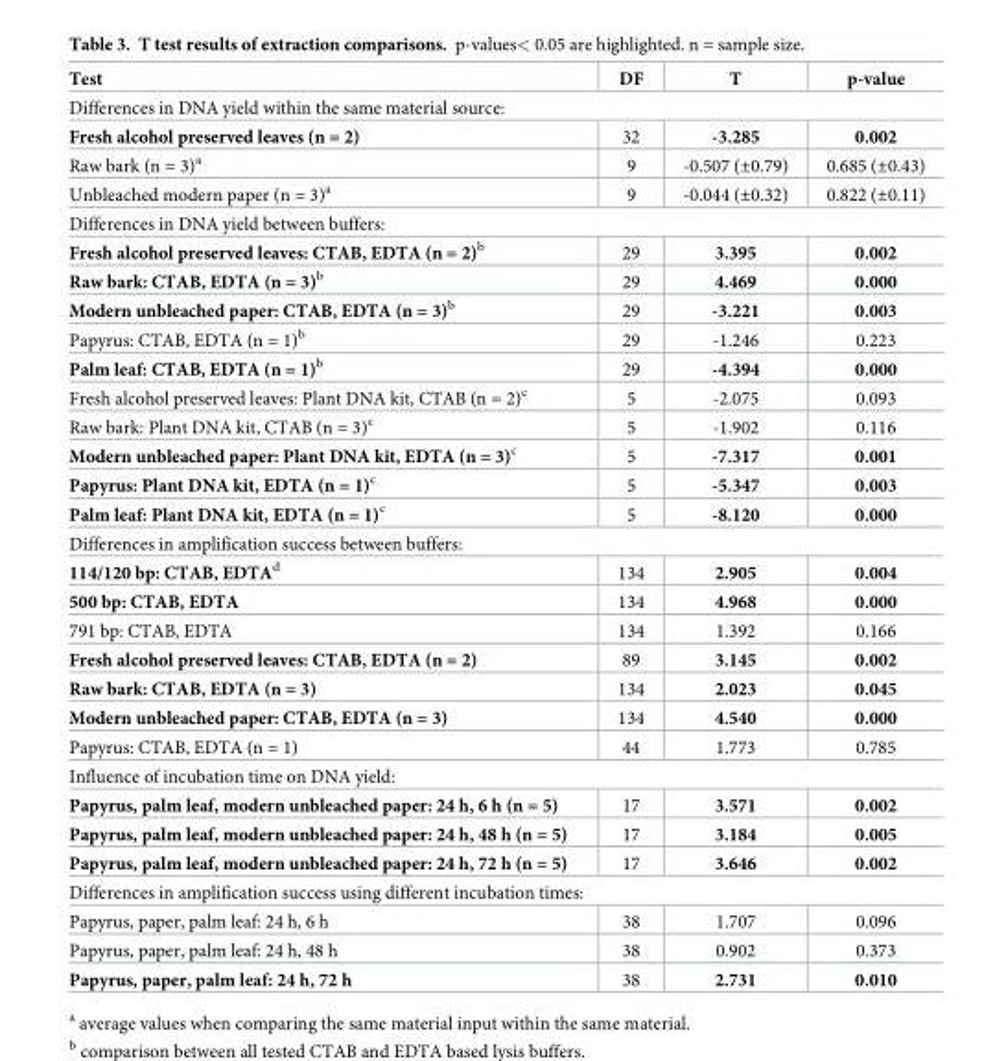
<table><thead><tr><td>Test</td><td>DF</td><td>T</td><td>p-value</td></tr></thead><tbody><tr><td colspan="4">Differences in DNA yield within the same material source:</td></tr><tr><td>Fresh alcohol preserved leaves (n = 2)</td><td>32</td><td>-3.285</td><td>0.002</td></tr><tr><td>Raw bark (n = 3)<sup>a</sup></td><td>9</td><td>-0.507 (±0.79)</td><td>0.685 (±0.43)</td></tr><tr><td>Unbleached modern paper (n = 3)<sup>a</sup></td><td>9</td><td>-0.044 (±0.32)</td><td>0.822 (±0.11)</td></tr><tr><td colspan="4">Differences in DNA yield between buffers:</td></tr><tr><td>Fresh alcohol preserved leaves: CTAB, EDTA (n = 2)<sup>b</sup></td><td>29</td><td>3.395</td><td>0.002</td></tr><tr><td>Raw bark: CTAB, EDTA (n = 3)<sup>b</sup></td><td>29</td><td>4.469</td><td>0.000</td></tr><tr><td>Modern unbleached paper: CTAB, EDTA (n = 3)<sup>b</sup></td><td>29</td><td>-3.221</td><td>0.003</td></tr><tr><td>Papyrus: CTAB, EDTA (n = 1)<sup>b</sup></td><td>29</td><td>-1.246</td><td>0.223</td></tr><tr><td>Palm leaf: CTAB, EDTA (n = 1)<sup>b</sup></td><td>29</td><td>-4.394</td><td>0.000</td></tr><tr><td>Fresh alcohol preserved leaves: Plant DNA kit, CTAB (n = 2)<sup>c</sup></td><td>5</td><td>-2.075</td><td>0.093</td></tr><tr><td>Raw bark: Plant DNA kit, CTAB (n = 3)<sup>c</sup></td><td>5</td><td>-1.902</td><td>0.116</td></tr><tr><td>Modern unbleached paper: Plant DNA kit, EDTA (n = 3)<sup>c</sup></td><td>5</td><td>-7.317</td><td>0.001</td></tr><tr><td>Papyrus: Plant DNA kit, EDTA (n = 1)<sup>c</sup></td><td>5</td><td>-5.347</td><td>0.003</td></tr><tr><td>Palm leaf: Plant DNA kit, EDTA (n = 1)<sup>c</sup></td><td>5</td><td>-8.120</td><td>0.000</td></tr><tr><td colspan="4">Differences in amplification success between buffers:</td></tr><tr><td>114/120 bp: CTAB, EDTA<sup>d</sup></td><td>134</td><td>2.905</td><td>0.004</td></tr><tr><td>500 bp: CTAB, EDTA</td><td>134</td><td>4.968</td><td>0.000</td></tr><tr><td>791 bp: CTAB, EDTA</td><td>134</td><td>1.392</td><td>0.166</td></tr><tr><td>Fresh alcohol preserved leaves: CTAB, EDTA (n = 2)</td><td>89</td><td>3.145</td><td>0.002</td></tr><tr><td>Raw bark: CTAB, EDTA (n = 3)</td><td>134</td><td>2.023</td><td>0.045</td></tr><tr><td>Modern unbleached paper: CTAB, EDTA (n = 3)</td><td>134</td><td>4.540</td><td>0.000</td></tr><tr><td>Papyrus: CTAB, EDTA (n = 1)</td><td>44</td><td>1.773</td><td>0.785</td></tr><tr><td colspan="4">Influence of incubation time on DNA yield:</td></tr><tr><td>Papyrus, palm leaf, modern unbleached paper: 24 h, 6 h (n = 5)</td><td>17</td><td>3.571</td><td>0.002</td></tr><tr><td>Papyrus, palm leaf, modern unbleached paper: 24 h, 48 h (n = 5)</td><td>17</td><td>3.184</td><td>0.005</td></tr><tr><td>Papyrus, palm leaf, modern unbleached paper: 24 h, 72 h (n = 5)</td><td>17</td><td>3.646</td><td>0.002</td></tr><tr><td colspan="4">Differences in amplification success using different incubation times:</td></tr><tr><td>Papyrus, paper, palm leaf: 24 h, 6 h</td><td>38</td><td>1.707</td><td>0.096</td></tr><tr><td>Papyrus, paper, palm leaf: 24 h, 48 h</td><td>38</td><td>0.902</td><td>0.373</td></tr><tr><td>Papyrus, paper, palm leaf: 24 h, 72 h</td><td>38</td><td>2.731</td><td>0.010</td></tr></tbody></table>